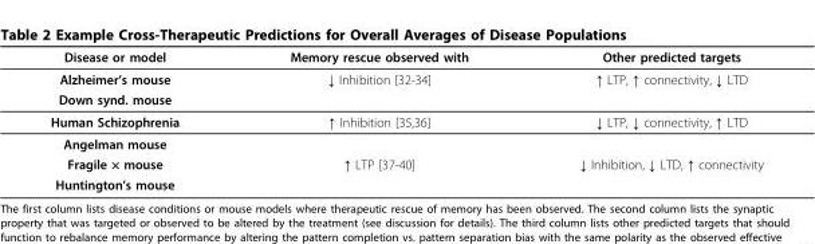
<table><thead><tr><td>Disease or model</td><td>Memory rescue observed with</td><td>Other predicted targets</td></tr></thead><tbody><tr><td>Alzheimer’s mouse</td><td>↓ Inhibition [32-34]</td><td>↑ LTP, ↑ connectivity, ↓ LTD</td></tr><tr><td colspan="3">Down synd. mouse</td></tr><tr><td>Human Schizophrenia</td><td>↑ Inhibition [35,36]</td><td>↓ LTP, ↓ connectivity, ↑ LTD</td></tr><tr><td colspan="3">Angelman mouse</td></tr><tr><td>Fragile × mouse</td><td>↑ LTP [37-40]</td><td>↓ Inhibition, ↓ LTD, ↑ connectivity</td></tr><tr><td>Huntington’s mouse</td><td></td><td></td></tr></tbody></table>